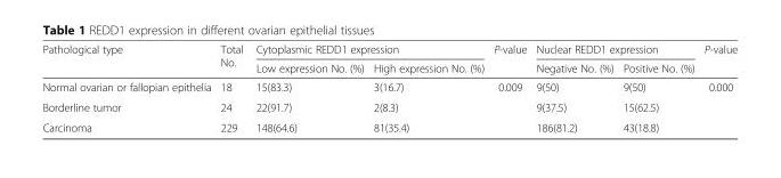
<table><thead><tr><td rowspan="2">Pathological type</td><td rowspan="2">Total No.</td><td colspan="2">Cytoplasmic REDD1 expression</td><td rowspan="2">P-value</td><td colspan="2">Nuclear REDD1 expression</td><td rowspan="2">P-value</td></tr><tr><td>Low expression No. (%)</td><td>High expression No. (%)</td><td>Negative No. (%)</td><td>Positive No. (%)</td></tr></thead><tbody><tr><td>Normal ovarian or fallopian epithelia</td><td>18</td><td>15(83.3)</td><td>3(16.7)</td><td rowspan="3">0.009</td><td>9(50)</td><td>9(50)</td><td rowspan="3">0.000</td></tr><tr><td>Borderline tumor</td><td>24</td><td>22(91.7)</td><td>2(8.3)</td><td>9(37.5)</td><td>15(62.5)</td></tr><tr><td>Carcinoma</td><td>229</td><td>148(64.6)</td><td>81(35.4)</td><td>186(81.2)</td><td>43(18.8)</td></tr></tbody></table>